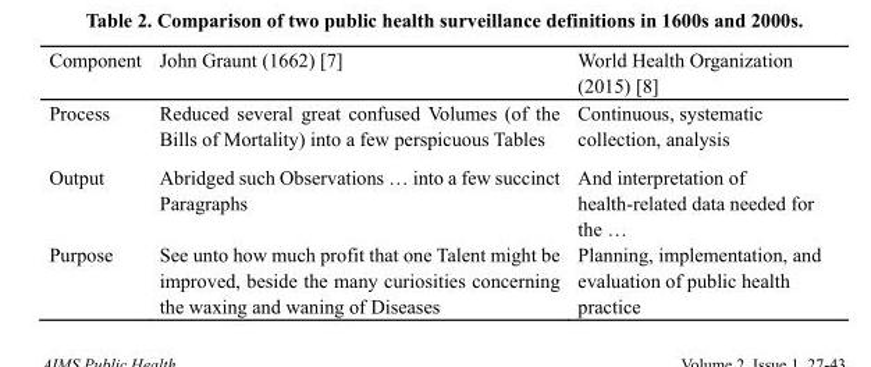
<table><thead><tr><td>Component</td><td>John Graunt (1662) [7]</td><td>World Health Organization (2015) [8]</td></tr></thead><tbody><tr><td>Process</td><td>Reduced several great confused Volumes (of the Bills of Mortality) into a few perspicuous Tables</td><td>Continuous, systematic collection, analysis</td></tr><tr><td>Output</td><td>Abridged such Observations … into a few succinct Paragraphs</td><td>And interpretation of health-related data needed for the …</td></tr><tr><td>Purpose</td><td>See unto how much profit that one Talent might be improved, beside the many curiosities concerning the waxing and waning of Diseases</td><td>Planning, implementation, and evaluation of public health practice</td></tr></tbody></table>